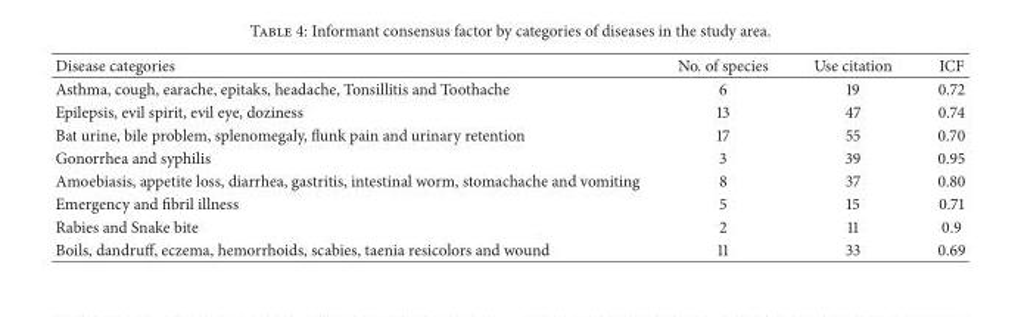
<table><thead><tr><td>Disease categories</td><td>No. of species</td><td>Use citation</td><td>ICF</td></tr></thead><tbody><tr><td>Asthma, cough, earache, epitaks, headache, Tonsillitis and Toothache</td><td>6</td><td>19</td><td>0.72</td></tr><tr><td>Epilepsis, evil spirit, evil eye, doziness</td><td>13</td><td>47</td><td>0.74</td></tr><tr><td>Bat urine, bile problem, splenomegaly, flunk pain and urinary retention</td><td>17</td><td>55</td><td>0.70</td></tr><tr><td>Gonorrhea and syphilis</td><td>3</td><td>39</td><td>0.95</td></tr><tr><td>Amoebiasis, appetite loss, diarrhea, gastritis, intestinal worm, stomachache and vomiting</td><td>8</td><td>37</td><td>0.80</td></tr><tr><td>Emergency and fibril illness</td><td>5</td><td>15</td><td>0.71</td></tr><tr><td>Rabies and Snake bite</td><td>2</td><td>11</td><td>0.9</td></tr><tr><td>Boils, dandruff, eczema, hemorrhoids, scabies, taenia resicolors and wound</td><td>11</td><td>33</td><td>0.69</td></tr></tbody></table>